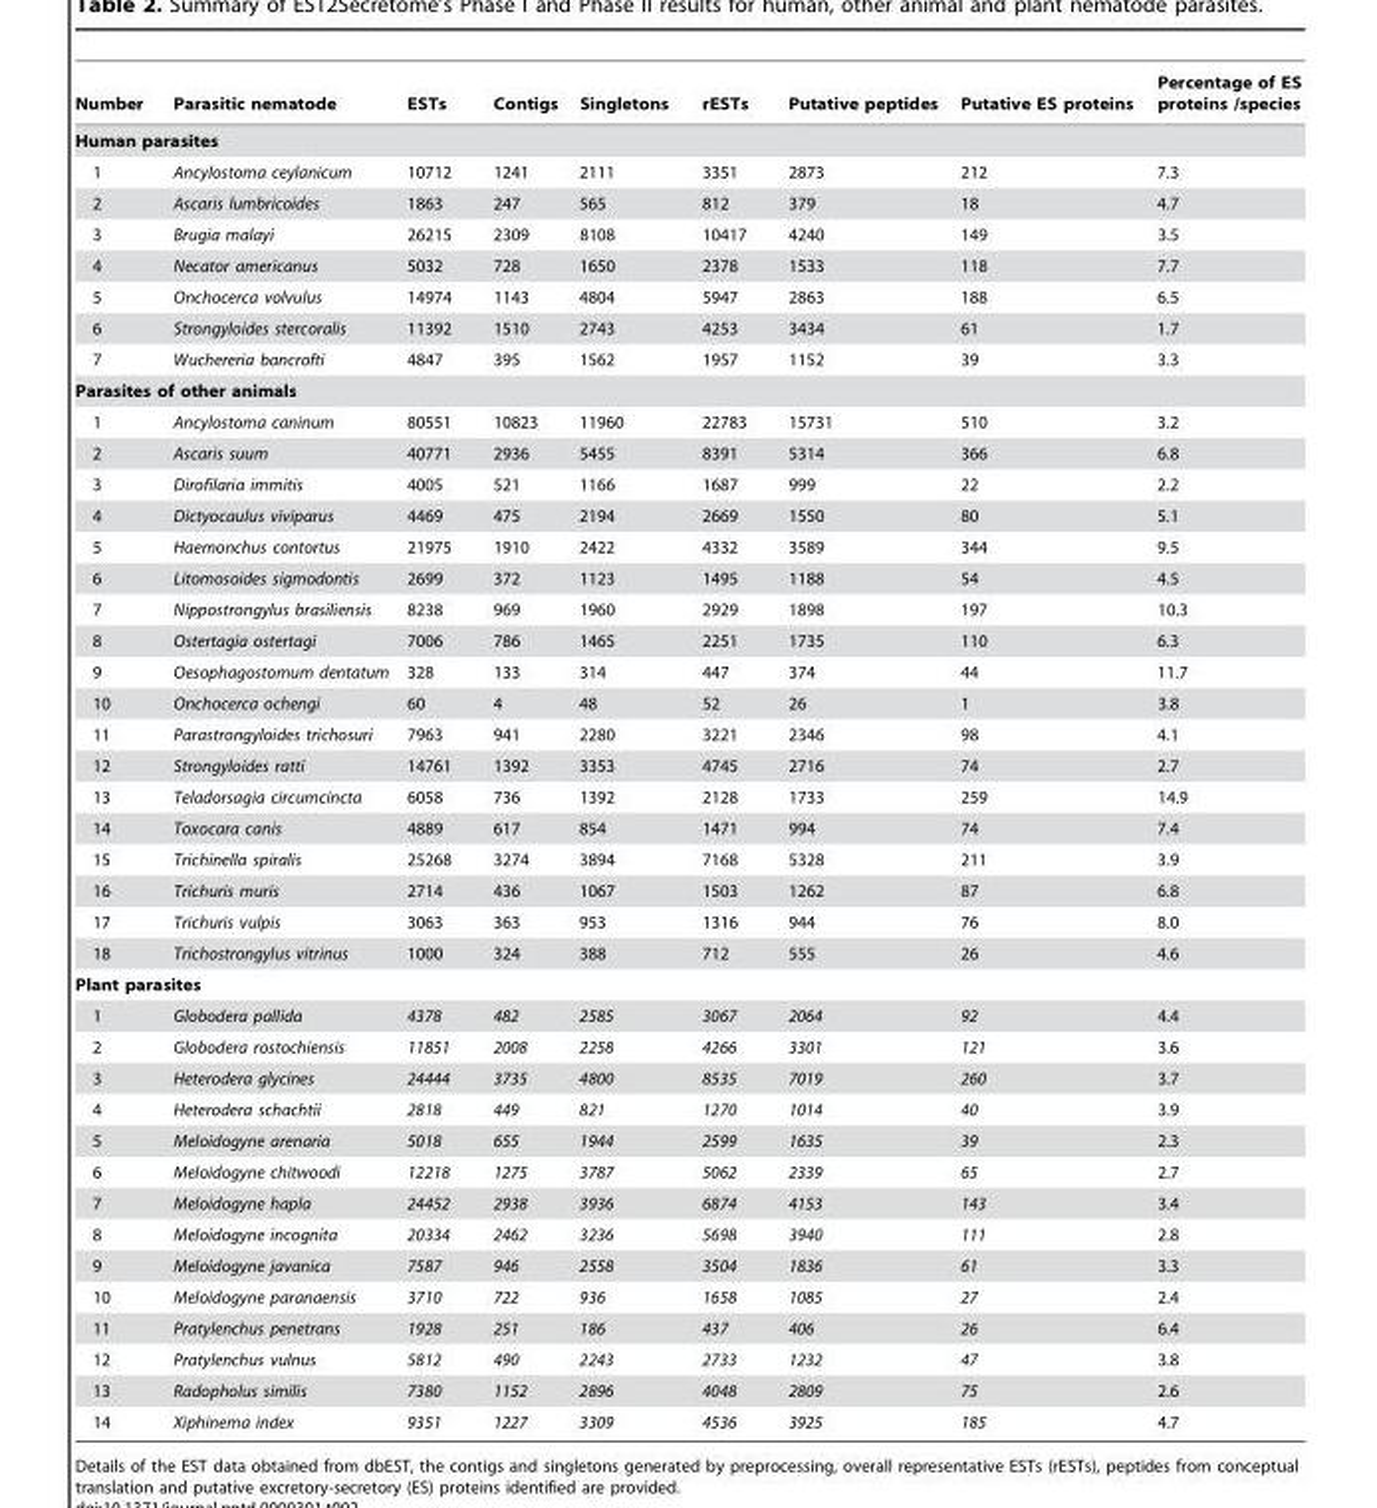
<table><thead><tr><td>Number</td><td>Parasitic nematode</td><td>ESTs</td><td>Contigs</td><td>Singletons</td><td>rESTs</td><td>Putative peptides</td><td>Putative ES proteins</td><td>Percentage of ES proteins /species</td></tr></thead><tbody><tr><td colspan="9">Human parasites</td></tr><tr><td>1</td><td>Ancylostoma ceylanicum</td><td>10712</td><td>1241</td><td>2111</td><td>3351</td><td>2873</td><td>212</td><td>7.3</td></tr><tr><td>2</td><td>Ascaris lumbricoides</td><td>1863</td><td>247</td><td>565</td><td>812</td><td>379</td><td>18</td><td>4.7</td></tr><tr><td>3</td><td>Brugia malayi</td><td>26215</td><td>2309</td><td>8108</td><td>10417</td><td>4240</td><td>149</td><td>3.5</td></tr><tr><td>4</td><td>Necator americanus</td><td>5032</td><td>728</td><td>1650</td><td>2378</td><td>1533</td><td>118</td><td>7.7</td></tr><tr><td>5</td><td>Onchocerca volvulus</td><td>14974</td><td>1143</td><td>4804</td><td>5947</td><td>2863</td><td>188</td><td>6.5</td></tr><tr><td>6</td><td>Strongyloides stercoralis</td><td>11392</td><td>1510</td><td>2743</td><td>4253</td><td>3434</td><td>61</td><td>1.7</td></tr><tr><td>7</td><td>Wuchereria bancrofti</td><td>4847</td><td>395</td><td>1562</td><td>1957</td><td>1152</td><td>39</td><td>3.3</td></tr><tr><td colspan="9">Parasites of other animals</td></tr><tr><td>1</td><td>Ancylostoma caninum</td><td>80551</td><td>10823</td><td>11960</td><td>22783</td><td>15731</td><td>510</td><td>3.2</td></tr><tr><td>2</td><td>Ascaris suum</td><td>40771</td><td>2936</td><td>5455</td><td>8391</td><td>5314</td><td>366</td><td>6.8</td></tr><tr><td>3</td><td>Dirofilaria immitis</td><td>4005</td><td>521</td><td>1166</td><td>1687</td><td>999</td><td>22</td><td>2.2</td></tr><tr><td>4</td><td>Dictyocaulus viviparus</td><td>4469</td><td>475</td><td>2194</td><td>2669</td><td>1550</td><td>80</td><td>5.1</td></tr><tr><td>5</td><td>Haemonchus contortus</td><td>21975</td><td>1910</td><td>2422</td><td>4332</td><td>3589</td><td>344</td><td>9.5</td></tr><tr><td>6</td><td>Litomosoides sigmodontis</td><td>2699</td><td>372</td><td>1123</td><td>1495</td><td>1188</td><td>54</td><td>4.5</td></tr><tr><td>7</td><td>Nippostrongylus brasiliensis</td><td>8238</td><td>969</td><td>1960</td><td>2929</td><td>1898</td><td>197</td><td>10.3</td></tr><tr><td>8</td><td>Ostertagia ostertagi</td><td>7006</td><td>786</td><td>1465</td><td>2251</td><td>1735</td><td>110</td><td>6.3</td></tr><tr><td>9</td><td>Oesophagostomum dentatum</td><td>328</td><td>133</td><td>314</td><td>447</td><td>374</td><td>44</td><td>11.7</td></tr><tr><td>10</td><td>Onchocerca ochengi</td><td>60</td><td>4</td><td>48</td><td>52</td><td>26</td><td>1</td><td>3.8</td></tr><tr><td>11</td><td>Parastrongyloides trichosuri</td><td>7963</td><td>941</td><td>2280</td><td>3221</td><td>2346</td><td>98</td><td>4.1</td></tr><tr><td>12</td><td>Strongyloides ratti</td><td>14761</td><td>1392</td><td>3353</td><td>4745</td><td>2716</td><td>74</td><td>2.7</td></tr><tr><td>13</td><td>Teladorsagia circumcincta</td><td>6058</td><td>736</td><td>1392</td><td>2128</td><td>1733</td><td>259</td><td>14.9</td></tr><tr><td>14</td><td>Toxocara canis</td><td>4889</td><td>617</td><td>854</td><td>1471</td><td>994</td><td>74</td><td>7.4</td></tr><tr><td>15</td><td>Trichinella spiralis</td><td>25268</td><td>3274</td><td>3894</td><td>7168</td><td>5328</td><td>211</td><td>3.9</td></tr><tr><td>16</td><td>Trichuris muris</td><td>2714</td><td>436</td><td>1067</td><td>1503</td><td>1262</td><td>87</td><td>6.8</td></tr><tr><td>17</td><td>Trichuris vulpis</td><td>3063</td><td>363</td><td>953</td><td>1316</td><td>944</td><td>76</td><td>8.0</td></tr><tr><td>18</td><td>Trichostrongylus vitrinus</td><td>1000</td><td>324</td><td>388</td><td>712</td><td>555</td><td>26</td><td>4.6</td></tr><tr><td colspan="9">Plant parasites</td></tr><tr><td>1</td><td>Globodera pallida</td><td>4378</td><td>482</td><td>2585</td><td>3067</td><td>2064</td><td>92</td><td>4.4</td></tr><tr><td>2</td><td>Globodera rostochiensis</td><td>11851</td><td>2008</td><td>2258</td><td>4266</td><td>3301</td><td>121</td><td>3.6</td></tr><tr><td>3</td><td>Heterodera glycines</td><td>24444</td><td>3735</td><td>4800</td><td>8535</td><td>7019</td><td>260</td><td>3.7</td></tr><tr><td>4</td><td>Heterodera schachtii</td><td>2818</td><td>449</td><td>821</td><td>1270</td><td>1014</td><td>40</td><td>3.9</td></tr><tr><td>5</td><td>Meloidogyne arenaria</td><td>5018</td><td>655</td><td>1944</td><td>2599</td><td>1635</td><td>39</td><td>2.3</td></tr><tr><td>6</td><td>Meloidogyne chitwoodi</td><td>12218</td><td>1275</td><td>3787</td><td>5062</td><td>2339</td><td>65</td><td>2.7</td></tr><tr><td>7</td><td>Meloidogyne hapla</td><td>24452</td><td>2938</td><td>3936</td><td>6874</td><td>4153</td><td>143</td><td>3.4</td></tr><tr><td>8</td><td>Meloidogyne incognita</td><td>20334</td><td>2462</td><td>3236</td><td>5698</td><td>3940</td><td>111</td><td>2.8</td></tr><tr><td>9</td><td>Meloidogyne javanica</td><td>7587</td><td>946</td><td>2558</td><td>3504</td><td>1836</td><td>61</td><td>3.3</td></tr><tr><td>10</td><td>Meloidogyne paranaensis</td><td>3710</td><td>722</td><td>936</td><td>1658</td><td>1085</td><td>27</td><td>2.4</td></tr><tr><td>11</td><td>Pratylenchus penetrans</td><td>1928</td><td>251</td><td>186</td><td>437</td><td>406</td><td>26</td><td>6.4</td></tr><tr><td>12</td><td>Pratylenchus vulnus</td><td>5812</td><td>490</td><td>2243</td><td>2733</td><td>1232</td><td>47</td><td>3.8</td></tr><tr><td>13</td><td>Radopholus similis</td><td>7380</td><td>1152</td><td>2896</td><td>4048</td><td>2809</td><td>75</td><td>2.6</td></tr><tr><td>14</td><td>Xiphinema index</td><td>9351</td><td>1227</td><td>3309</td><td>4536</td><td>3925</td><td>185</td><td>4.7</td></tr></tbody></table>